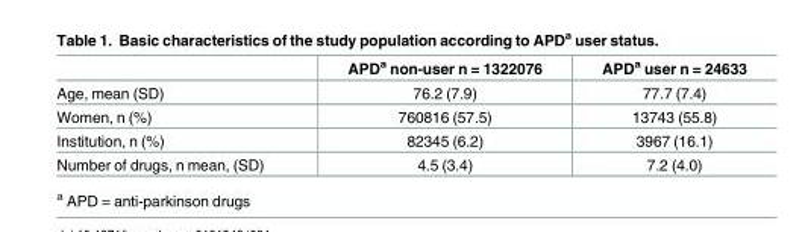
<table><thead><tr><td></td><td>APD<sup>a</sup> non-user n = 1322076</td><td>APD<sup>a</sup> user n = 24633</td></tr></thead><tbody><tr><td>Age, mean (SD)</td><td>76.2 (7.9)</td><td>77.7 (7.4)</td></tr><tr><td>Women, n (%)</td><td>760816 (57.5)</td><td>13743 (55.8)</td></tr><tr><td>Institution, n (%)</td><td>82345 (6.2)</td><td>3967 (16.1)</td></tr><tr><td>Number of drugs, n mean, (SD)</td><td>4.5 (3.4)</td><td>7.2 (4.0)</td></tr></tbody></table>